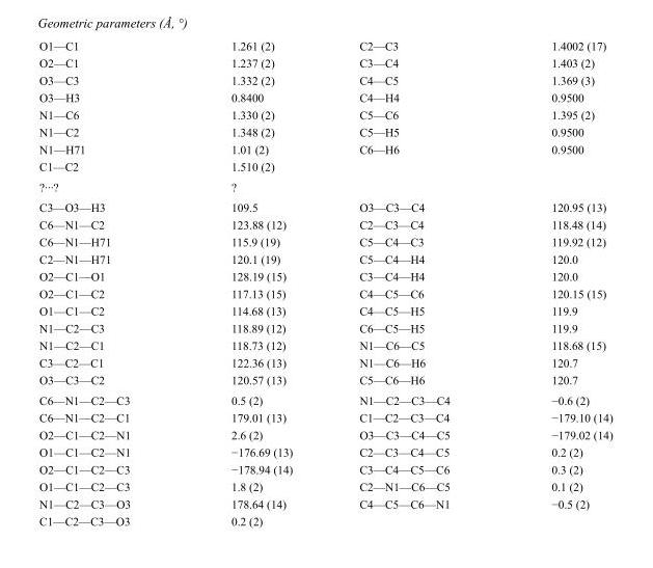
<table><tbody><tr><td>O1—C1</td><td>1.261 (2)</td><td>C2—C3</td><td>1.4002 (17)</td></tr><tr><td>O2—C1</td><td>1.237 (2)</td><td>C3—C4</td><td>1.403 (2)</td></tr><tr><td>O3—C3</td><td>1.332 (2)</td><td>C4—C5</td><td>1.369 (3)</td></tr><tr><td>O3—H3</td><td>0.8400</td><td>C4—H4</td><td>0.9500</td></tr><tr><td>N1—C6</td><td>1.330 (2)</td><td>C5—C6</td><td>1.395 (2)</td></tr><tr><td>N1—C2</td><td>1.348 (2)</td><td>C5—H5</td><td>0.9500</td></tr><tr><td>N1—H71</td><td>1.01 (2)</td><td>C6—H6</td><td>0.9500</td></tr><tr><td>C1—C2</td><td>1.510 (2)</td><td></td><td></td></tr><tr><td>?···?</td><td>?</td><td></td><td></td></tr><tr><td>C3—O3—H3</td><td>109.5</td><td>O3—C3—C4</td><td>120.95 (13)</td></tr><tr><td>C6—N1—C2</td><td>123.88 (12)</td><td>C2—C3—C4</td><td>118.48 (14)</td></tr><tr><td>C6—N1—H71</td><td>115.9 (19)</td><td>C5—C4—C3</td><td>119.92 (12)</td></tr><tr><td>C2—N1—H71</td><td>120.1 (19)</td><td>C5—C4—H4</td><td>120.0</td></tr><tr><td>O2—C1—O1</td><td>128.19 (15)</td><td>C3—C4—H4</td><td>120.0</td></tr><tr><td>O2—C1—C2</td><td>117.13 (15)</td><td>C4—C5—C6</td><td>120.15 (15)</td></tr><tr><td>O1—C1—C2</td><td>114.68 (13)</td><td>C4—C5—H5</td><td>119.9</td></tr><tr><td>N1—C2—C3</td><td>118.89 (12)</td><td>C6—C5—H5</td><td>119.9</td></tr><tr><td>N1—C2—C1</td><td>118.73 (12)</td><td>N1—C6—C5</td><td>118.68 (15)</td></tr><tr><td>C3—C2—C1</td><td>122.36 (13)</td><td>N1—C6—H6</td><td>120.7</td></tr><tr><td>O3—C3—C2</td><td>120.57 (13)</td><td>C5—C6—H6</td><td>120.7</td></tr><tr><td>C6—N1—C2—C3</td><td>0.5 (2)</td><td>N1—C2—C3—C4</td><td>−0.6 (2)</td></tr><tr><td>C6—N1—C2—C1</td><td>179.01 (13)</td><td>C1—C2—C3—C4</td><td>−179.10 (14)</td></tr><tr><td>O2—C1—C2—N1</td><td>2.6 (2)</td><td>O3—C3—C4—C5</td><td>−179.02 (14)</td></tr><tr><td>O1—C1—C2—N1</td><td>−176.69 (13)</td><td>C2—C3—C4—C5</td><td>0.2 (2)</td></tr><tr><td>O2—C1—C2—C3</td><td>−178.94 (14)</td><td>C3—C4—C5—C6</td><td>0.3 (2)</td></tr><tr><td>O1—C1—C2—C3</td><td>1.8 (2)</td><td>C2—N1—C6—C5</td><td>0.1 (2)</td></tr><tr><td>N1—C2—C3—O3</td><td>178.64 (14)</td><td>C4—C5—C6—N1</td><td>−0.5 (2)</td></tr><tr><td>C1—C2—C3—O3</td><td>0.2 (2)</td><td></td><td></td></tr></tbody></table>